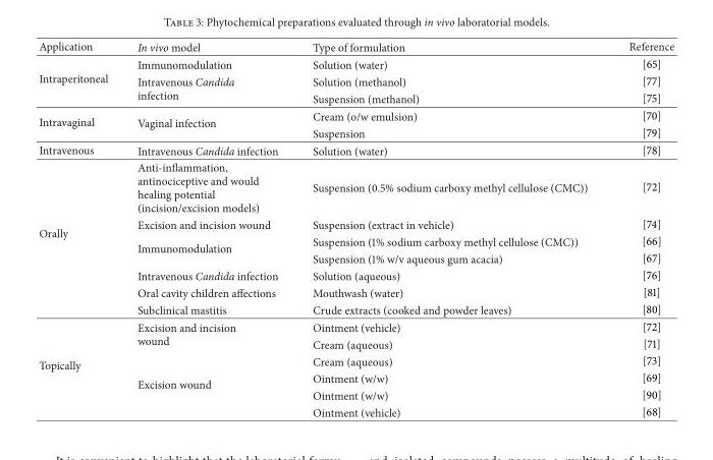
<table><thead><tr><td>Application</td><td>In vivo model</td><td>Type of formulation</td><td>Reference</td></tr></thead><tbody><tr><td rowspan="3">Intraperitoneal</td><td>Immunomodulation</td><td>Solution (water)</td><td>[65]</td></tr><tr><td rowspan="2">Intravenous Candida infection</td><td>Solution (methanol)</td><td>[77]</td></tr><tr><td>Suspension (methanol)</td><td>[75]</td></tr><tr><td rowspan="2">Intravaginal</td><td rowspan="2">Vaginal infection</td><td>Cream (o/w emulsion)</td><td>[70]</td></tr><tr><td>Suspension</td><td>[79]</td></tr><tr><td>Intravenous</td><td>Intravenous Candida infection</td><td>Solution (water)</td><td>[78]</td></tr><tr><td rowspan="7">Orally</td><td>Anti-inflammation, antinociceptive and would healing potential (incision/excision models)</td><td>Suspension (0.5% sodium carboxy methyl cellulose (CMC))</td><td>[72]</td></tr><tr><td>Excision and incision wound</td><td>Suspension (extract in vehicle)</td><td>[74]</td></tr><tr><td rowspan="2">Immunomodulation</td><td>Suspension (1% sodium carboxy methyl cellulose (CMC))</td><td>[66]</td></tr><tr><td>Suspension (1% w/v aqueous gum acacia)</td><td>[67]</td></tr><tr><td>Intravenous Candida infection</td><td>Solution (aqueous)</td><td>[76]</td></tr><tr><td>Oral cavity children affections</td><td>Mouthwash (water)</td><td>[81]</td></tr><tr><td>Subclinical mastitis</td><td>Crude extracts (cooked and powder leaves)</td><td>[80]</td></tr><tr><td rowspan="6">Topically</td><td rowspan="2">Excision and incision wound</td><td>Ointment (vehicle)</td><td>[72]</td></tr><tr><td>Cream (aqueous)</td><td>[71]</td></tr><tr><td rowspan="4">Excision wound</td><td>Cream (aqueous)</td><td>[73]</td></tr><tr><td>Ointment (w/w)</td><td>[69]</td></tr><tr><td>Ointment (w/w)</td><td>[90]</td></tr><tr><td>Ointment (vehicle)</td><td>[68]</td></tr></tbody></table>